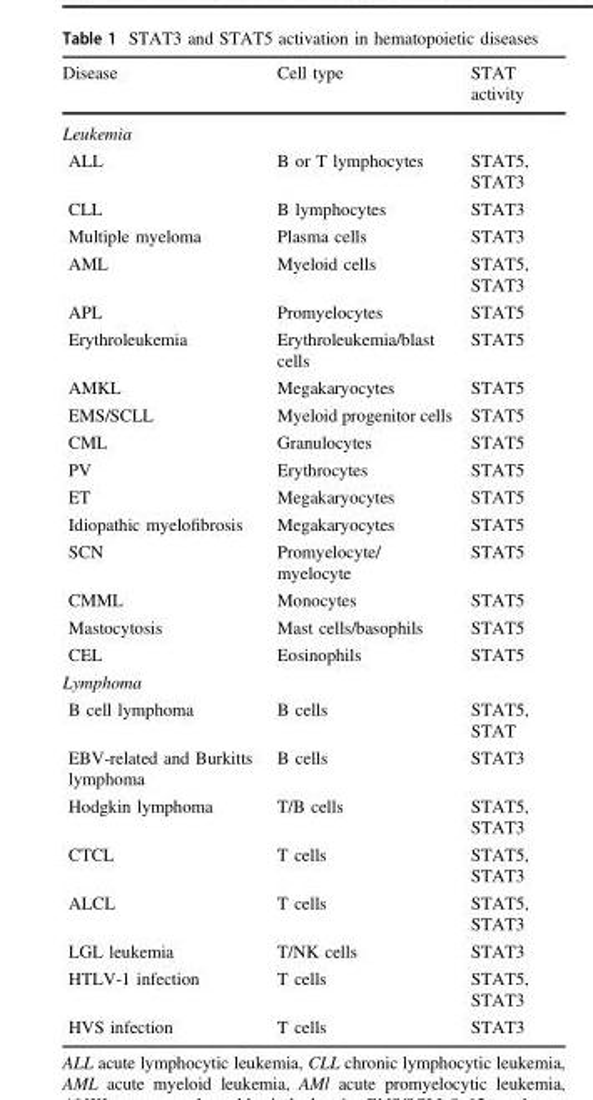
<table><thead><tr><td>Disease</td><td>Cell type</td><td>STAT activity</td></tr></thead><tbody><tr><td colspan="3">Leukemia</td></tr><tr><td>ALL</td><td>B or T lymphocytes</td><td>STAT5, STAT3</td></tr><tr><td>CLL</td><td>B lymphocytes</td><td>STAT3</td></tr><tr><td>Multiple myeloma</td><td>Plasma cells</td><td>STAT3</td></tr><tr><td>AML</td><td>Myeloid cells</td><td>STAT5, STAT3</td></tr><tr><td>APL</td><td>Promyelocytes</td><td>STAT5</td></tr><tr><td>Erythroleukemia</td><td>Erythroleukemia/blast cells</td><td>STAT5</td></tr><tr><td>AMKL</td><td>Megakaryocytes</td><td>STAT5</td></tr><tr><td>EMS/SCLL</td><td>Myeloid progenitor cells</td><td>STAT5</td></tr><tr><td>CML</td><td>Granulocytes</td><td>STAT5</td></tr><tr><td>PV</td><td>Erythrocytes</td><td>STAT5</td></tr><tr><td>ET</td><td>Megakaryocytes</td><td>STAT5</td></tr><tr><td>Idiopathic myelofibrosis</td><td>Megakaryocytes</td><td>STAT5</td></tr><tr><td>SCN</td><td>Promyelocyte/ myelocyte</td><td>STAT5</td></tr><tr><td>CMML</td><td>Monocytes</td><td>STAT5</td></tr><tr><td>Mastocytosis</td><td>Mast cells/basophils</td><td>STAT5</td></tr><tr><td>CEL</td><td>Eosinophils</td><td>STAT5</td></tr><tr><td colspan="3">Lymphoma</td></tr><tr><td>B cell lymphoma</td><td>B cells</td><td>STAT5, STAT</td></tr><tr><td>EBV-related and Burkitts lymphoma</td><td>B cells</td><td>STAT3</td></tr><tr><td>Hodgkin lymphoma</td><td>T/B cells</td><td>STAT5, STAT3</td></tr><tr><td>CTCL</td><td>T cells</td><td>STAT5, STAT3</td></tr><tr><td>ALCL</td><td>T cells</td><td>STAT5, STAT3</td></tr><tr><td>LGL leukemia</td><td>T/NK cells</td><td>STAT3</td></tr><tr><td>HTLV-1 infection</td><td>T cells</td><td>STAT5, STAT3</td></tr><tr><td>HVS infection</td><td>T cells</td><td>STAT3</td></tr></tbody></table>